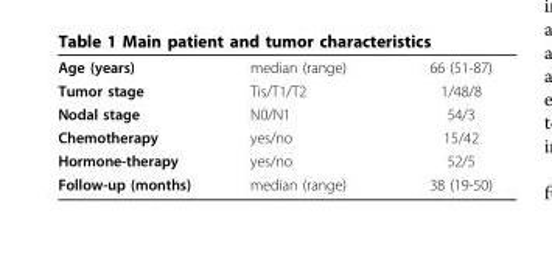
<table><tbody><tr><td>Age (years)</td><td>median (range)</td><td>66 (51-87)</td></tr><tr><td>Tumor stage</td><td>Tis/T1/T2</td><td>1/48/8</td></tr><tr><td>Nodal stage</td><td>N0/N1</td><td>54/3</td></tr><tr><td>Chemotherapy</td><td>yes/no</td><td>15/42</td></tr><tr><td>Hormone-therapy</td><td>yes/no</td><td>52/5</td></tr><tr><td>Follow-up (months)</td><td>median (range)</td><td>38 (19-50)</td></tr></tbody></table>